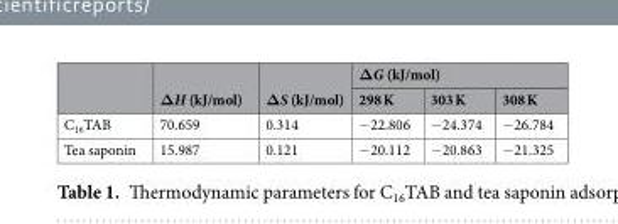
<table><thead><tr><td rowspan="2"></td><td rowspan="2">ΔH (kJ/mol)</td><td rowspan="2">ΔS (kJ/mol)</td><td colspan="3">ΔG (kJ/mol)</td></tr><tr><td>298 K</td><td>303 K</td><td>308 K</td></tr></thead><tbody><tr><td>C<sub>16</sub>TAB</td><td>70.659</td><td>0.314</td><td>−22.806</td><td>−24.374</td><td>−26.784</td></tr><tr><td>Tea saponin</td><td>15.987</td><td>0.121</td><td>−20.112</td><td>−20.863</td><td>−21.325</td></tr></tbody></table>